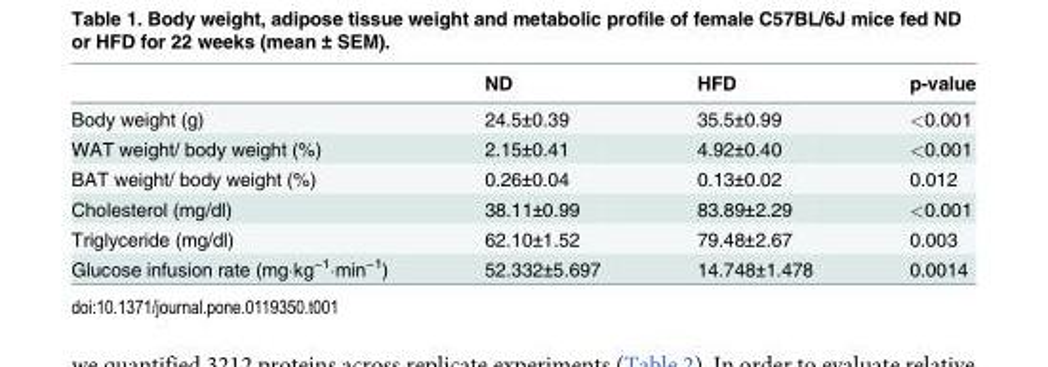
<table><thead><tr><td></td><td>ND</td><td>HFD</td><td>p-value</td></tr></thead><tbody><tr><td>Body weight (g)</td><td>24.5±0.39</td><td>35.5±0.99</td><td>&lt;0.001</td></tr><tr><td>WAT weight/ body weight (%)</td><td>2.15±0.41</td><td>4.92±0.40</td><td>&lt;0.001</td></tr><tr><td>BAT weight/ body weight (%)</td><td>0.26±0.04</td><td>0.13±0.02</td><td>0.012</td></tr><tr><td>Cholesterol (mg/dl)</td><td>38.11±0.99</td><td>83.89±2.29</td><td>&lt;0.001</td></tr><tr><td>Triglyceride (mg/dl)</td><td>62.10±1.52</td><td>79.48±2.67</td><td>0.003</td></tr><tr><td>Glucose infusion rate (mg·kg<sup>−1</sup>·min<sup>−1</sup>)</td><td>52.332±5.697</td><td>14.748±1.478</td><td>0.0014</td></tr></tbody></table>